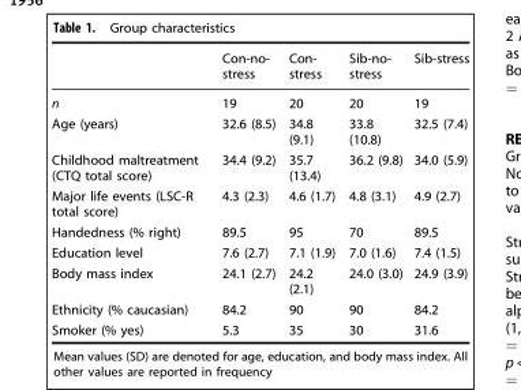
<table><thead><tr><td></td><td>Con-no- stress</td><td>Con- stress</td><td>Sib-no- stress</td><td>Sib-stress</td></tr></thead><tbody><tr><td>n</td><td>19</td><td>20</td><td>20</td><td>19</td></tr><tr><td>Age (years)</td><td>32.6 (8.5)</td><td>34.8 (9.1)</td><td>33.8 (10.8)</td><td>32.5 (7.4)</td></tr><tr><td>Childhood maltreatment (CTQ total score)</td><td>34.4 (9.2)</td><td>35.7 (13.4)</td><td>36.2 (9.8)</td><td>34.0 (5.9)</td></tr><tr><td>Major life events (LSC-R total score)</td><td>4.3 (2.3)</td><td>4.6 (1.7)</td><td>4.8 (3.1)</td><td>4.9 (2.7)</td></tr><tr><td>Handedness (% right)</td><td>89.5</td><td>95</td><td>70</td><td>89.5</td></tr><tr><td>Education level</td><td>7.6 (2.7)</td><td>7.1 (1.9)</td><td>7.0 (1.6)</td><td>7.4 (1.5)</td></tr><tr><td>Body mass index</td><td>24.1 (2.7)</td><td>24.2 (2.1)</td><td>24.0 (3.0)</td><td>24.9 (3.9)</td></tr><tr><td>Ethnicity (% caucasian)</td><td>84.2</td><td>90</td><td>90</td><td>84.2</td></tr><tr><td>Smoker (% yes)</td><td>5.3</td><td>35</td><td>30</td><td>31.6</td></tr></tbody></table>